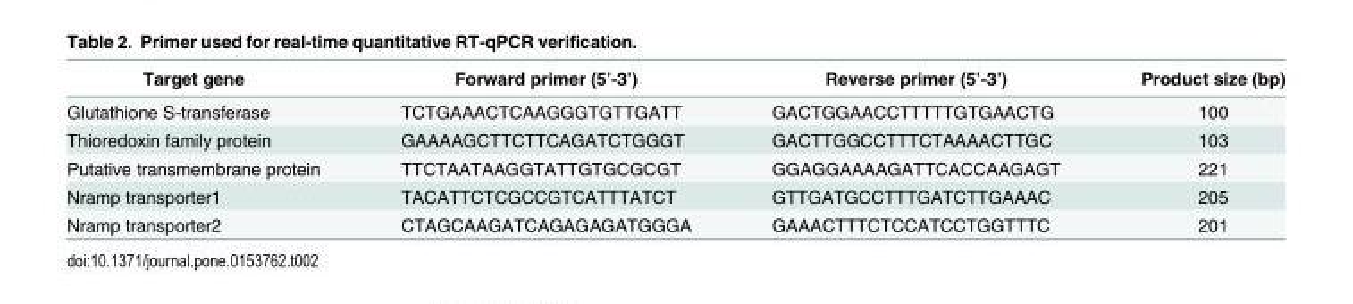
<table><thead><tr><td>Target gene</td><td>Forward primer (5’-3’)</td><td>Reverse primer (5’-3’)</td><td>Product size (bp)</td></tr></thead><tbody><tr><td>Glutathione S-transferase</td><td>TCTGAAACTCAAGGGTGTTGATT</td><td>GACTGGAACCTTTTTGTGAACTG</td><td>100</td></tr><tr><td>Thioredoxin family protein</td><td>GAAAAGCTTCTTCAGATCTGGGT</td><td>GACTTGGCCTTTCTAAAACTTGC</td><td>103</td></tr><tr><td>Putative transmembrane protein</td><td>TTCTAATAAGGTATTGTGCGCGT</td><td>GGAGGAAAAGATTCACCAAGAGT</td><td>221</td></tr><tr><td>Nramp transporter1</td><td>TACATTCTCGCCGTCATTTATCT</td><td>GTTGATGCCTTTGATCTTGAAAC</td><td>205</td></tr><tr><td>Nramp transporter2</td><td>CTAGCAAGATCAGAGAGATGGGA</td><td>GAAACTTTCTCCATCCTGGTTTC</td><td>201</td></tr></tbody></table>